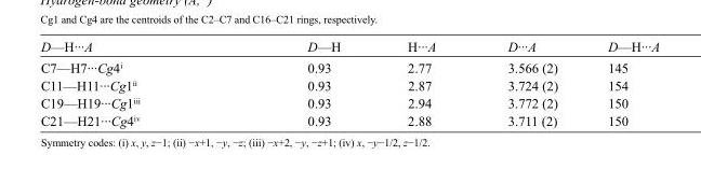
<table><tbody><tr><td>D—H···A</td><td>D—H</td><td>H···A</td><td>D···A</td><td>D—H···A</td></tr><tr><td>C7—H7···Cg4<sup>i</sup></td><td>0.93</td><td>2.77</td><td>3.566 (2)</td><td>145</td></tr><tr><td>C11—H11···Cg1<sup>ii</sup></td><td>0.93</td><td>2.87</td><td>3.724 (2)</td><td>154</td></tr><tr><td>C19—H19···Cg1<sup>iii</sup></td><td>0.93</td><td>2.94</td><td>3.772 (2)</td><td>150</td></tr><tr><td>C21—H21···Cg4<sup>iv</sup></td><td>0.93</td><td>2.88</td><td>3.711 (2)</td><td>150</td></tr></tbody></table>